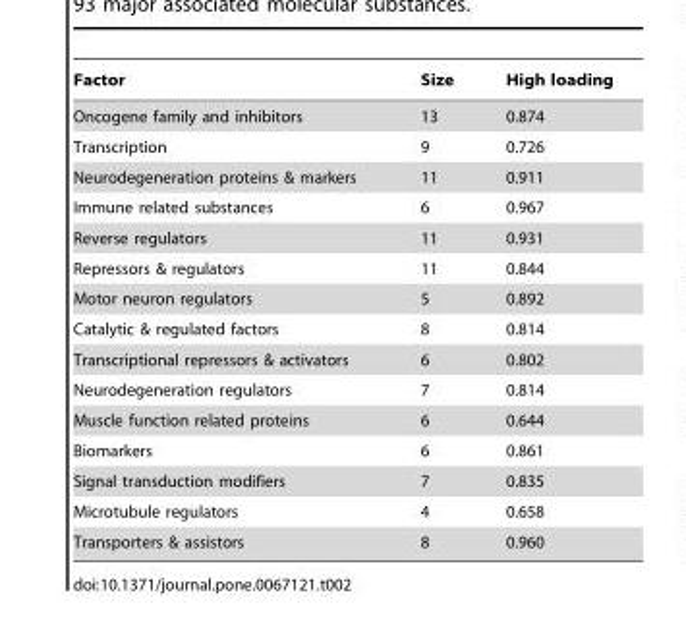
<table><thead><tr><td>Factor</td><td>Size</td><td>High loading</td></tr></thead><tbody><tr><td>Oncogene family and inhibitors</td><td>13</td><td>0.874</td></tr><tr><td>Transcription</td><td>9</td><td>0.726</td></tr><tr><td>Neurodegeneration proteins &amp; markers</td><td>11</td><td>0.911</td></tr><tr><td>Immune related substances</td><td>6</td><td>0.967</td></tr><tr><td>Reverse regulators</td><td>11</td><td>0.931</td></tr><tr><td>Repressors &amp; regulators</td><td>11</td><td>0.844</td></tr><tr><td>Motor neuron regulators</td><td>5</td><td>0.892</td></tr><tr><td>Catalytic &amp; regulated factors</td><td>8</td><td>0.814</td></tr><tr><td>Transcriptional repressors &amp; activators</td><td>6</td><td>0.802</td></tr><tr><td>Neurodegeneration regulators</td><td>7</td><td>0.814</td></tr><tr><td>Muscle function related proteins</td><td>6</td><td>0.644</td></tr><tr><td>Biomarkers</td><td>6</td><td>0.861</td></tr><tr><td>Signal transduction modifiers</td><td>7</td><td>0.835</td></tr><tr><td>Microtubule regulators</td><td>4</td><td>0.658</td></tr><tr><td>Transporters &amp; assistors</td><td>8</td><td>0.960</td></tr></tbody></table>